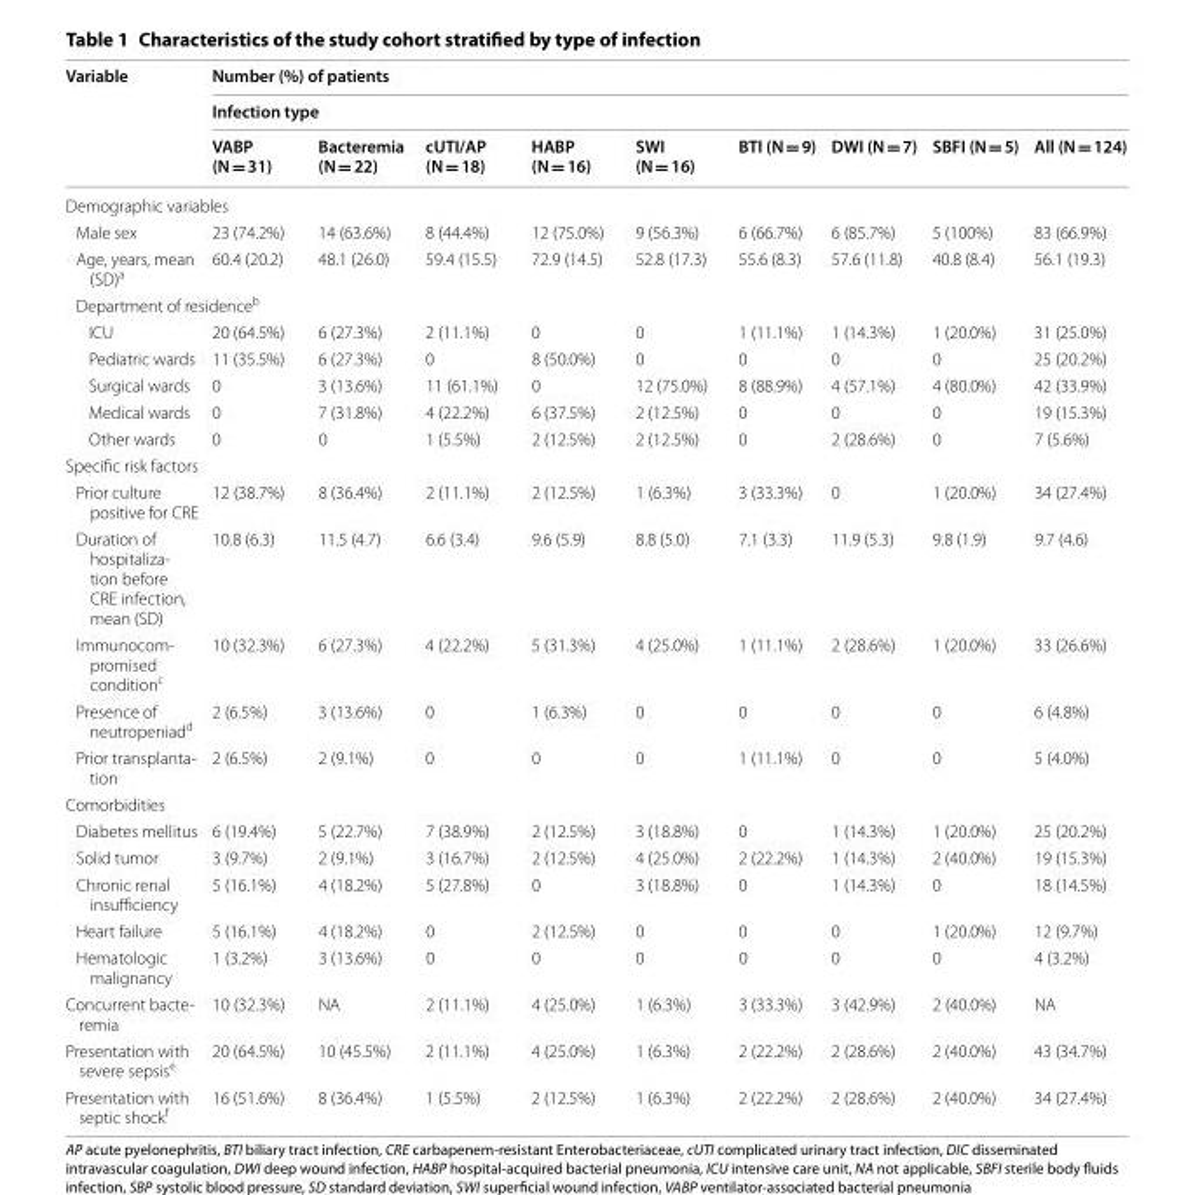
<table><thead><tr><td rowspan="3">Variable</td><td rowspan="2" colspan="9">Number (%) of patients Infection type</td></tr><tr></tr><tr><td>VABP (N = 31)</td><td>Bacteremia (N = 22)</td><td>cUTI/AP (N = 18)</td><td>HABP (N = 16)</td><td>SWI (N = 16)</td><td>BTI (N = 9)</td><td>DWI (N = 7)</td><td>SBFI (N = 5)</td><td>All (N = 124)</td></tr></thead><tbody><tr><td colspan="10">Demographic variables</td></tr><tr><td>Male sex</td><td>23 (74.2%)</td><td>14 (63.6%)</td><td>8 (44.4%)</td><td>12 (75.0%)</td><td>9 (56.3%)</td><td>6 (66.7%)</td><td>6 (85.7%)</td><td>5 (100%)</td><td>83 (66.9%)</td></tr><tr><td>Age, years, mean (SD)<sup>a</sup></td><td>60.4 (20.2)</td><td>48.1 (26.0)</td><td>59.4 (15.5)</td><td>72.9 (14.5)</td><td>52.8 (17.3)</td><td>55.6 (8.3)</td><td>57.6 (11.8)</td><td>40.8 (8.4)</td><td>56.1 (19.3)</td></tr><tr><td colspan="10">Department of residence<sup>b</sup></td></tr><tr><td>ICU</td><td>20 (64.5%)</td><td>6 (27.3%)</td><td>2 (11.1%)</td><td>0</td><td>0</td><td>1 (11.1%)</td><td>1 (14.3%)</td><td>1 (20.0%)</td><td>31 (25.0%)</td></tr><tr><td>Pediatric wards</td><td>11 (35.5%)</td><td>6 (27.3%)</td><td>0</td><td>8 (50.0%)</td><td>0</td><td>0</td><td>0</td><td>0</td><td>25 (20.2%)</td></tr><tr><td>Surgical wards</td><td>0</td><td>3 (13.6%)</td><td>11 (61.1%)</td><td>0</td><td>12 (75.0%)</td><td>8 (88.9%)</td><td>4 (57.1%)</td><td>4 (80.0%)</td><td>42 (33.9%)</td></tr><tr><td>Medical wards</td><td>0</td><td>7 (31.8%)</td><td>4 (22.2%)</td><td>6 (37.5%)</td><td>2 (12.5%)</td><td>0</td><td>0</td><td>0</td><td>19 (15.3%)</td></tr><tr><td>Other wards</td><td>0</td><td>0</td><td>1 (5.5%)</td><td>2 (12.5%)</td><td>2 (12.5%)</td><td>0</td><td>2 (28.6%)</td><td>0</td><td>7 (5.6%)</td></tr><tr><td colspan="10">Specific risk factors</td></tr><tr><td>Prior culture positive for CRE</td><td>12 (38.7%)</td><td>8 (36.4%)</td><td>2 (11.1%)</td><td>2 (12.5%)</td><td>1 (6.3%)</td><td>3 (33.3%)</td><td>0</td><td>1 (20.0%)</td><td>34 (27.4%)</td></tr><tr><td>Duration of hospitaliza‑ tion before CRE infection, mean (SD)</td><td>10.8 (6.3)</td><td>11.5 (4.7)</td><td>6.6 (3.4)</td><td>9.6 (5.9)</td><td>8.8 (5.0)</td><td>7.1 (3.3)</td><td>11.9 (5.3)</td><td>9.8 (1.9)</td><td>9.7 (4.6)</td></tr><tr><td>Immunocom‑ promised conditionc</td><td>10 (32.3%)</td><td>6 (27.3%)</td><td>4 (22.2%)</td><td>5 (31.3%)</td><td>4 (25.0%)</td><td>1 (11.1%)</td><td>2 (28.6%)</td><td>1 (20.0%)</td><td>33 (26.6%)</td></tr><tr><td>Presence of neutropeniad<sup>d</sup></td><td>2 (6.5%)</td><td>3 (13.6%)</td><td>0</td><td>1 (6.3%)</td><td>0</td><td>0</td><td>0</td><td>0</td><td>6 (4.8%)</td></tr><tr><td>Prior transplanta‑ tion</td><td>2 (6.5%)</td><td>2 (9.1%)</td><td>0</td><td>0</td><td>0</td><td>1 (11.1%)</td><td>0</td><td>0</td><td>5 (4.0%)</td></tr><tr><td colspan="10">Comorbidities</td></tr><tr><td>Diabetes mellitus</td><td>6 (19.4%)</td><td>5 (22.7%)</td><td>7 (38.9%)</td><td>2 (12.5%)</td><td>3 (18.8%)</td><td>0</td><td>1 (14.3%)</td><td>1 (20.0%)</td><td>25 (20.2%)</td></tr><tr><td>Solid tumor</td><td>3 (9.7%)</td><td>2 (9.1%)</td><td>3 (16.7%)</td><td>2 (12.5%)</td><td>4 (25.0%)</td><td>2 (22.2%)</td><td>1 (14.3%)</td><td>2 (40.0%)</td><td>19 (15.3%)</td></tr><tr><td>Chronic renal insufficiency</td><td>5 (16.1%)</td><td>4 (18.2%)</td><td>5 (27.8%)</td><td>0</td><td>3 (18.8%)</td><td>0</td><td>1 (14.3%)</td><td>0</td><td>18 (14.5%)</td></tr><tr><td>Heart failure</td><td>5 (16.1%)</td><td>4 (18.2%)</td><td>0</td><td>2 (12.5%)</td><td>0</td><td>0</td><td>0</td><td>1 (20.0%)</td><td>12 (9.7%)</td></tr><tr><td>Hematologic malignancy</td><td>1 (3.2%)</td><td>3 (13.6%)</td><td>0</td><td>0</td><td>0</td><td>0</td><td>0</td><td>0</td><td>4 (3.2%)</td></tr><tr><td>Concurrent bacte‑ remia</td><td>10 (32.3%)</td><td>NA</td><td>2 (11.1%)</td><td>4 (25.0%)</td><td>1 (6.3%)</td><td>3 (33.3%)</td><td>3 (42.9%)</td><td>2 (40.0%)</td><td>NA</td></tr><tr><td>Presentation with severe sepsis<sup>e</sup></td><td>20 (64.5%)</td><td>10 (45.5%)</td><td>2 (11.1%)</td><td>4 (25.0%)</td><td>1 (6.3%)</td><td>2 (22.2%)</td><td>2 (28.6%)</td><td>2 (40.0%)</td><td>43 (34.7%)</td></tr><tr><td>Presentation with septic shock<sup>f</sup></td><td>16 (51.6%)</td><td>8 (36.4%)</td><td>1 (5.5%)</td><td>2 (12.5%)</td><td>1 (6.3%)</td><td>2 (22.2%)</td><td>2 (28.6%)</td><td>2 (40.0%)</td><td>34 (27.4%)</td></tr></tbody></table>